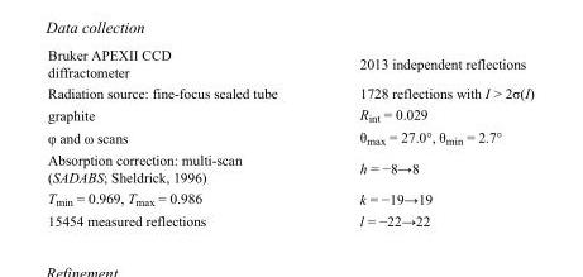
<table><tbody><tr><td>Bruker APEXII CCD diffractometer</td><td>2013 independent reflections</td></tr><tr><td>Radiation source: fine-focus sealed tube</td><td>1728 reflections with I &gt; 2σ(I)</td></tr><tr><td>graphite</td><td>R<sub>int</sub> = 0.029</td></tr><tr><td>φ and ω scans</td><td>θ<sub>max</sub> = 27.0°, θ<sub>min</sub> = 2.7°</td></tr><tr><td>Absorption correction: multi-scan (SADABS; Sheldrick, 1996)</td><td>h = −8→8</td></tr><tr><td>T<sub>min</sub> = 0.969, T<sub>max</sub> = 0.986</td><td>k = −19→19</td></tr><tr><td>15454 measured reflections</td><td>l = −22→22</td></tr></tbody></table>